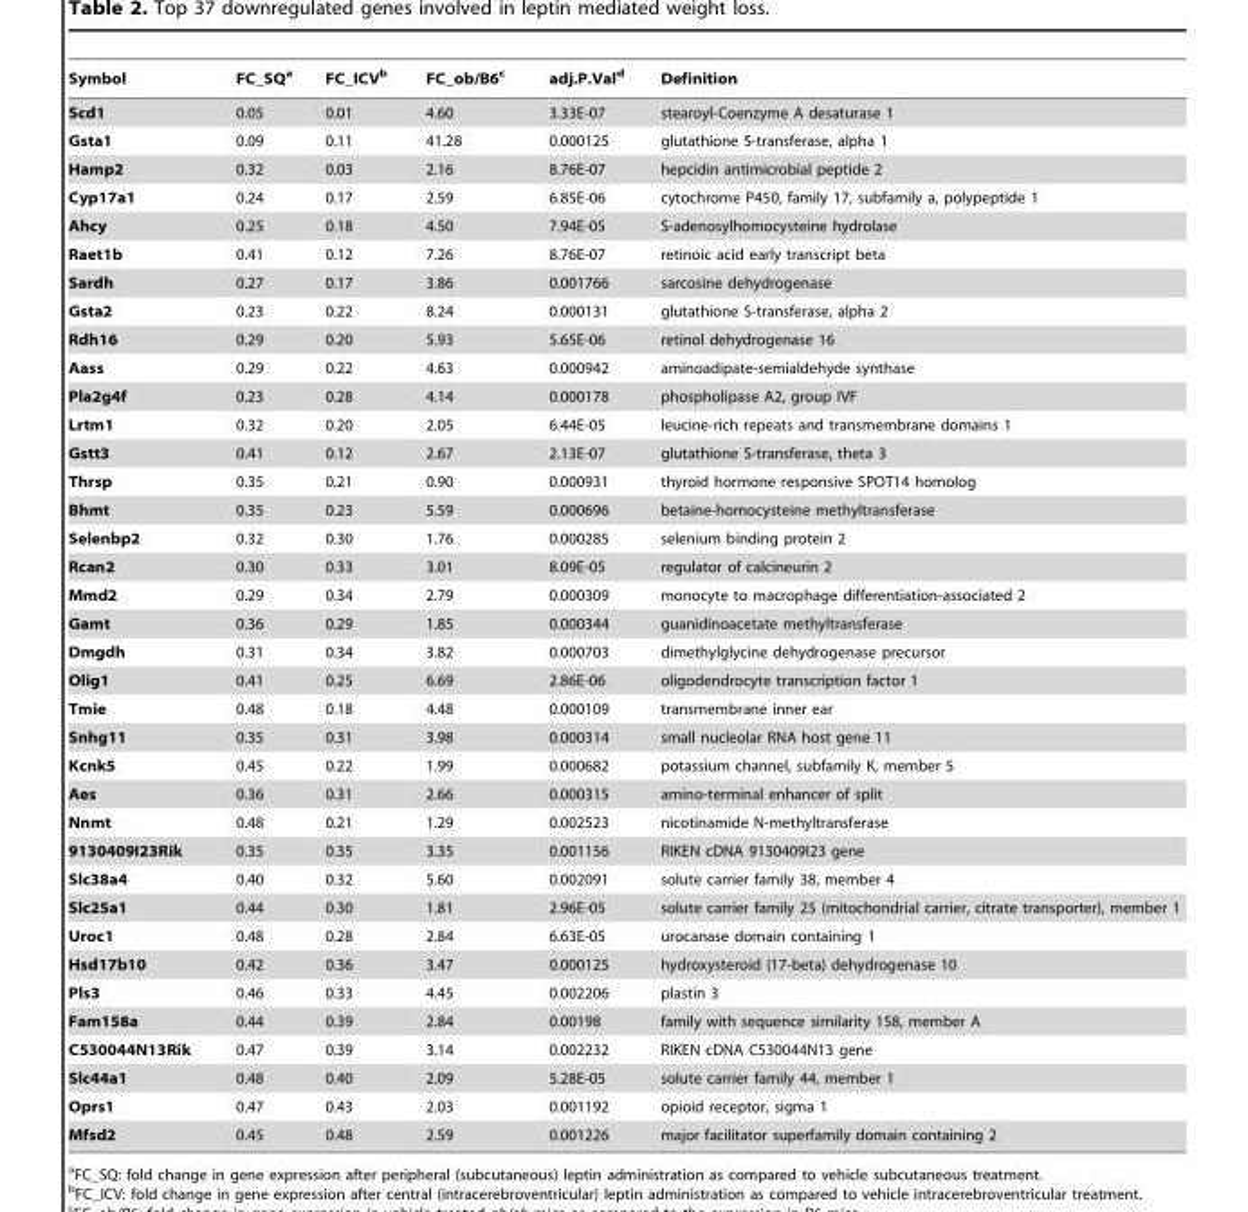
<table><thead><tr><td>Symbol</td><td>FC_SQ<sup>a</sup></td><td>FC_ICV<sup>b</sup></td><td>FC_ob/B6<sup>c</sup></td><td>adj.P.Val<sup>d</sup></td><td>Definition</td></tr></thead><tbody><tr><td>Scd1</td><td>0.05</td><td>0.01</td><td>4.60</td><td>3.33E-07</td><td>stearoyl-Coenzyme A desaturase 1</td></tr><tr><td>Gsta1</td><td>0.09</td><td>0.11</td><td>41.28</td><td>0.000125</td><td>glutathione S-transferase, alpha 1</td></tr><tr><td>Hamp2</td><td>0.32</td><td>0.03</td><td>2.16</td><td>8.76E-07</td><td>hepcidin antimicrobial peptide 2</td></tr><tr><td>Cyp17a1</td><td>0.24</td><td>0.17</td><td>2.59</td><td>6.85E-06</td><td>cytochrome P450, family 17, subfamily a, polypeptide 1</td></tr><tr><td>Ahcy</td><td>0.25</td><td>0.18</td><td>4.50</td><td>7.94E-05</td><td>S-adenosylhomocysteine hydrolase</td></tr><tr><td>Raet1b</td><td>0.41</td><td>0.12</td><td>7.26</td><td>8.76E-07</td><td>retinoic acid early transcript beta</td></tr><tr><td>Sardh</td><td>0.27</td><td>0.17</td><td>3.86</td><td>0.001766</td><td>sarcosine dehydrogenase</td></tr><tr><td>Gsta2</td><td>0.23</td><td>0.22</td><td>8.24</td><td>0.000131</td><td>glutathione S-transferase, alpha 2</td></tr><tr><td>Rdh16</td><td>0.29</td><td>0.20</td><td>5.93</td><td>5.65E-06</td><td>retinol dehydrogenase 16</td></tr><tr><td>Aass</td><td>0.29</td><td>0.22</td><td>4.63</td><td>0.000942</td><td>aminoadipate-semialdehyde synthase</td></tr><tr><td>Pla2g4f</td><td>0.23</td><td>0.28</td><td>4.14</td><td>0.000178</td><td>phospholipase A2, group IVF</td></tr><tr><td>Lrtm1</td><td>0.32</td><td>0.20</td><td>2.05</td><td>6.44E-05</td><td>leucine-rich repeats and transmembrane domains 1</td></tr><tr><td>Gstt3</td><td>0.41</td><td>0.12</td><td>2.67</td><td>2.13E-07</td><td>glutathione S-transferase, theta 3</td></tr><tr><td>Thrsp</td><td>0.35</td><td>0.21</td><td>0.90</td><td>0.000931</td><td>thyroid hormone responsive SPOT14 homolog</td></tr><tr><td>Bhmt</td><td>0.35</td><td>0.23</td><td>5.59</td><td>0.000696</td><td>betaine-homocysteine methyltransferase</td></tr><tr><td>Selenbp2</td><td>0.32</td><td>0.30</td><td>1.76</td><td>0.000285</td><td>selenium binding protein 2</td></tr><tr><td>Rcan2</td><td>0.30</td><td>0.33</td><td>3.01</td><td>8.09E-05</td><td>regulator of calcineurin 2</td></tr><tr><td>Mmd2</td><td>0.29</td><td>0.34</td><td>2.79</td><td>0.000309</td><td>monocyte to macrophage differentiation-associated 2</td></tr><tr><td>Gamt</td><td>0.36</td><td>0.29</td><td>1.85</td><td>0.000344</td><td>guanidinoacetate methyltransferase</td></tr><tr><td>Dmgdh</td><td>0.31</td><td>0.34</td><td>3.82</td><td>0.000703</td><td>dimethylglycine dehydrogenase precursor</td></tr><tr><td>Olig1</td><td>0.41</td><td>0.25</td><td>6.69</td><td>2.86E-06</td><td>oligodendrocyte transcription factor 1</td></tr><tr><td>Tmie</td><td>0.48</td><td>0.18</td><td>4.48</td><td>0.000109</td><td>transmembrane inner ear</td></tr><tr><td>Snhg11</td><td>0.35</td><td>0.31</td><td>3.98</td><td>0.000314</td><td>small nucleolar RNA host gene 11</td></tr><tr><td>Kcnk5</td><td>0.45</td><td>0.22</td><td>1.99</td><td>0.000682</td><td>potassium channel, subfamily K, member 5</td></tr><tr><td>Aes</td><td>0.36</td><td>0.31</td><td>2.66</td><td>0.000315</td><td>amino-terminal enhancer of split</td></tr><tr><td>Nnmt</td><td>0.48</td><td>0.21</td><td>1.29</td><td>0.002523</td><td>nicotinamide N-methyltransferase</td></tr><tr><td>9130409I23Rik</td><td>0.35</td><td>0.35</td><td>3.35</td><td>0.001156</td><td>RIKEN cDNA 9130409I23 gene</td></tr><tr><td>Slc38a4</td><td>0.40</td><td>0.32</td><td>5.60</td><td>0.002091</td><td>solute carrier family 38, member 4</td></tr><tr><td>Slc25a1</td><td>0.44</td><td>0.30</td><td>1.81</td><td>2.96E-05</td><td>solute carrier family 25 (mitochondrial carrier, citrate transporter), member 1</td></tr><tr><td>Uroc1</td><td>0.48</td><td>0.28</td><td>2.84</td><td>6.63E-05</td><td>urocanase domain containing 1</td></tr><tr><td>Hsd17b10</td><td>0.42</td><td>0.36</td><td>3.47</td><td>0.000125</td><td>hydroxysteroid (17-beta) dehydrogenase 10</td></tr><tr><td>Pls3</td><td>0.46</td><td>0.33</td><td>4.45</td><td>0.002206</td><td>plastin 3</td></tr><tr><td>Fam158a</td><td>0.44</td><td>0.39</td><td>2.84</td><td>0.00198</td><td>family with sequence similarity 158, member A</td></tr><tr><td>C530044N13Rik</td><td>0.47</td><td>0.39</td><td>3.14</td><td>0.002232</td><td>RIKEN cDNA C530044N13 gene</td></tr><tr><td>Slc44a1</td><td>0.48</td><td>0.40</td><td>2.09</td><td>5.28E-05</td><td>solute carrier family 44, member 1</td></tr><tr><td>Oprs1</td><td>0.47</td><td>0.43</td><td>2.03</td><td>0.001192</td><td>opioid receptor, sigma 1</td></tr><tr><td>Mfsd2</td><td>0.45</td><td>0.48</td><td>2.59</td><td>0.001226</td><td>major facilitator superfamily domain containing 2</td></tr></tbody></table>